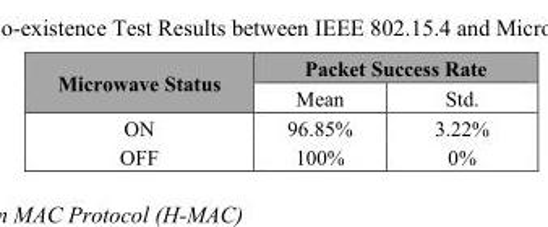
<table><thead><tr><td rowspan="2">Microwave Status</td><td colspan="2">Packet Success Rate</td></tr><tr><td>Mean</td><td>Std.</td></tr></thead><tbody><tr><td>ON</td><td>96.85%</td><td>3.22%</td></tr><tr><td>OFF</td><td>100%</td><td>0%</td></tr></tbody></table>